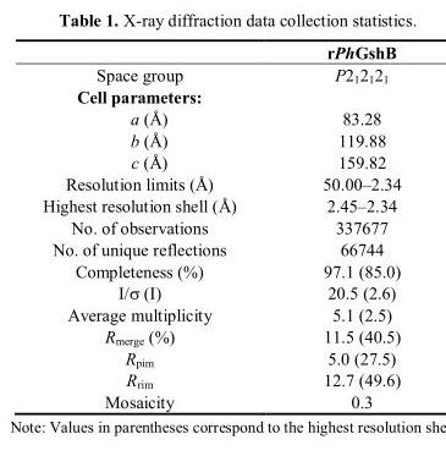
<table><thead><tr><td></td><td>rPhGshB</td></tr></thead><tbody><tr><td>Space group</td><td>P2<sub>1</sub>2<sub>1</sub>2<sub>1</sub></td></tr><tr><td colspan="2">Cell parameters:</td></tr><tr><td>a (Å)</td><td>83.28</td></tr><tr><td>b (Å)</td><td>119.88</td></tr><tr><td>c (Å)</td><td>159.82</td></tr><tr><td>Resolution limits (Å)</td><td>50.00–2.34</td></tr><tr><td>Highest resolution shell (Å)</td><td>2.45–2.34</td></tr><tr><td>No. of observations</td><td>337677</td></tr><tr><td>No. of unique reflections</td><td>66744</td></tr><tr><td>Completeness (%)</td><td>97.1 (85.0)</td></tr><tr><td>I/σ (I)</td><td>20.5 (2.6)</td></tr><tr><td>Average multiplicity</td><td>5.1 (2.5)</td></tr><tr><td>R<sub>merge</sub> (%)</td><td>11.5 (40.5)</td></tr><tr><td>R<sub>pim</sub></td><td>5.0 (27.5)</td></tr><tr><td>R<sub>rim</sub></td><td>12.7 (49.6)</td></tr><tr><td>Mosaicity</td><td>0.3</td></tr></tbody></table>